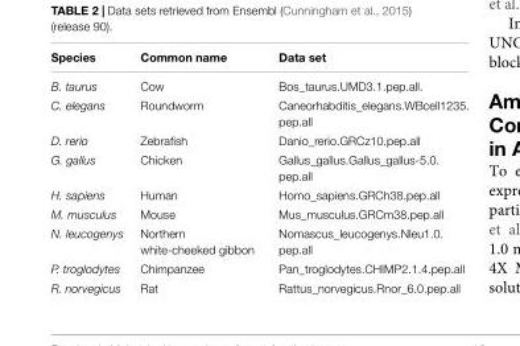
<table><thead><tr><td>Species</td><td>Common name</td><td>Data set</td></tr></thead><tbody><tr><td>B. taurus</td><td>Cow</td><td>Bos_taurus.UMD3.1.pep.all.</td></tr><tr><td>C. elegans</td><td>Roundworm</td><td>Caneorhabditis_elegans.WBcell1235. pep.all</td></tr><tr><td>D. rerio</td><td>Zebrafish</td><td>Danio_rerio.GRCz10.pep.all</td></tr><tr><td>G. gallus</td><td>Chicken</td><td>Gallus_gallus.Gallus_gallus-5.0. pep.all</td></tr><tr><td>H. sapiens</td><td>Human</td><td>Homo_sapiens.GRCh38.pep.all</td></tr><tr><td>M. musculus</td><td>Mouse</td><td>Mus_musculus.GRCm38.pep.all</td></tr><tr><td>N. leucogenys</td><td>Northern white-cheeked gibbon</td><td>Nomascus_leucogenys.Nleu1.0. pep.all</td></tr><tr><td>P. troglodytes</td><td>Chimpanzee</td><td>Pan_troglodytes.CHIMP2.1.4.pep.all</td></tr><tr><td>R. norvegicus</td><td>Rat</td><td>Rattus_norvegicus.Rnor_6.0.pep.all</td></tr></tbody></table>